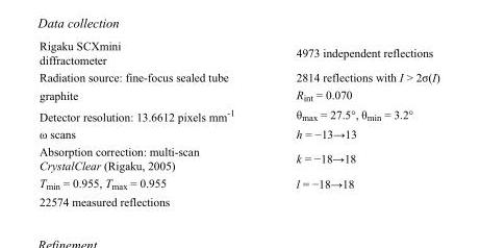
<table><tbody><tr><td>Rigaku SCXmini diffractometer</td><td>4973 independent reflections</td></tr><tr><td>Radiation source: fine-focus sealed tube</td><td>2814 reflections with I &gt; 2σ(I)</td></tr><tr><td>graphite</td><td>R<sub>int</sub> = 0.070</td></tr><tr><td>Detector resolution: 13.6612 pixels mm<sup>-1</sup></td><td>θ<sub>max</sub> = 27.5°, θ<sub>min</sub> = 3.2°</td></tr><tr><td>ω scans</td><td>h = −13→13</td></tr><tr><td>Absorption correction: multi-scan CrystalClear (Rigaku, 2005)</td><td>k = −18→18</td></tr><tr><td>T<sub>min</sub> = 0.955, T<sub>max</sub> = 0.955</td><td>l = −18→18</td></tr><tr><td>22574 measured reflections</td><td></td></tr></tbody></table>